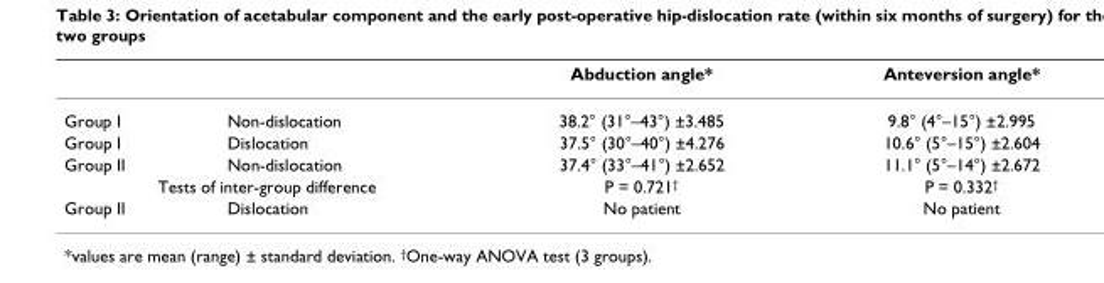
<table><thead><tr><td></td><td></td><td>Abduction angle*</td><td>Anteversion angle*</td></tr></thead><tbody><tr><td>Group I</td><td>Non-dislocation</td><td>38.2° (31°–43°) ±3.485</td><td>9.8° (4°–15°) ±2.995</td></tr><tr><td>Group I</td><td>Dislocation</td><td>37.5° (30°–40°) ±4.276</td><td>10.6° (5°–15°) ±2.604</td></tr><tr><td>Group II</td><td>Non-dislocation</td><td>37.4° (33°–41°) ±2.652</td><td>11.1° (5°–14°) ±2.672</td></tr><tr><td colspan="2">Tests of inter-group difference</td><td>P = 0.721<sup>†</sup></td><td>P = 0.332<sup>†</sup></td></tr><tr><td>Group II</td><td>Dislocation</td><td>No patient</td><td>No patient</td></tr></tbody></table>